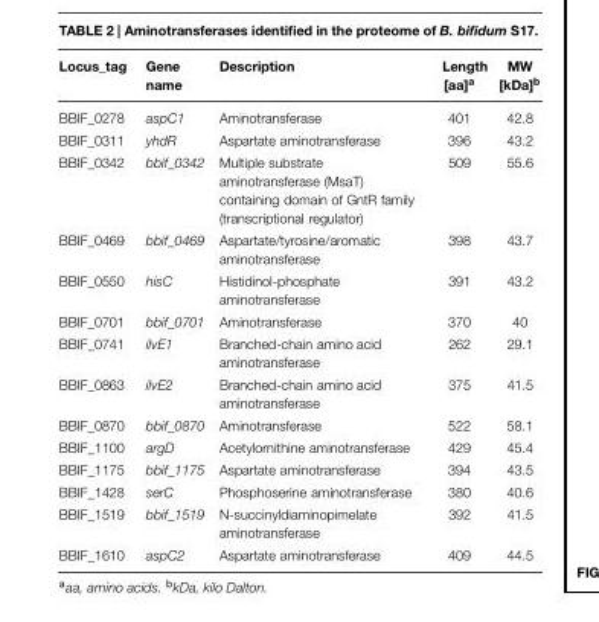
<table><thead><tr><td>Locus_tag</td><td>Gene name</td><td>Description</td><td>Length [aa]<sup>a</sup></td><td>MW [kDa]<sup>b</sup></td></tr></thead><tbody><tr><td>BBIF_0278</td><td>aspC1</td><td>Aminotransferase</td><td>401</td><td>42.8</td></tr><tr><td>BBIF_0311</td><td>yhdR</td><td>Aspartate aminotransferase</td><td>396</td><td>43.2</td></tr><tr><td>BBIF_0342</td><td>bbif_0342</td><td>Multiple substrate aminotransferase (MsaT) containing domain of GntR family (transcriptional regulator)</td><td>509</td><td>55.6</td></tr><tr><td>BBIF_0469</td><td>bbif_0469</td><td>Aspartate/tyrosine/aromatic aminotransferase</td><td>398</td><td>43.7</td></tr><tr><td>BBIF_0550</td><td>hisC</td><td>Histidinol-phosphate aminotransferase</td><td>391</td><td>43.2</td></tr><tr><td>BBIF_0701</td><td>bbif_0701</td><td>Aminotransferase</td><td>370</td><td>40</td></tr><tr><td>BBIF_0741</td><td>ilvE1</td><td>Branched-chain amino acid aminotransferase</td><td>262</td><td>29.1</td></tr><tr><td>BBIF_0863</td><td>ilvE2</td><td>Branched-chain amino acid aminotransferase</td><td>375</td><td>41.5</td></tr><tr><td>BBIF_0870</td><td>bbif_0870</td><td>Aminotransferase</td><td>522</td><td>58.1</td></tr><tr><td>BBIF_1100</td><td>argD</td><td>Acetylornithine aminotransferase</td><td>429</td><td>45.4</td></tr><tr><td>BBIF_1175</td><td>bbif_1175</td><td>Aspartate aminotransferase</td><td>394</td><td>43.5</td></tr><tr><td>BBIF_1428</td><td>serC</td><td>Phosphoserine aminotransferase</td><td>380</td><td>40.6</td></tr><tr><td>BBIF_1519</td><td>bbif_1519</td><td>N-succinyldiaminopimelate aminotransferase</td><td>392</td><td>41.5</td></tr><tr><td>BBIF_1610</td><td>aspC2</td><td>Aspartate aminotransferase</td><td>409</td><td>44.5</td></tr></tbody></table>